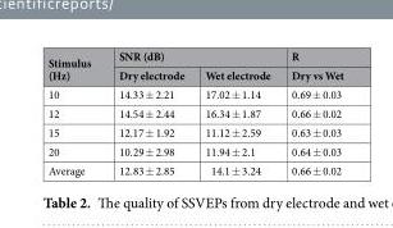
<table><thead><tr><td rowspan="2">Stimulus (Hz)</td><td colspan="2">SNR (dB)</td><td rowspan="2">R Dry vs Wet</td></tr><tr><td>Dry electrode</td><td>Wet electrode</td></tr></thead><tbody><tr><td>10</td><td>14.33 ± 2.21</td><td>17.02 ± 1.14</td><td>0.69 ± 0.03</td></tr><tr><td>12</td><td>14.54 ± 2.44</td><td>16.34 ± 1.87</td><td>0.66 ± 0.02</td></tr><tr><td>15</td><td>12.17 ± 1.92</td><td>11.12 ± 2.59</td><td>0.63 ± 0.03</td></tr><tr><td>20</td><td>10.29 ± 2.98</td><td>11.94 ± 2.1</td><td>0.64 ± 0.03</td></tr><tr><td>Average</td><td>12.83 ± 2.85</td><td>14.1 ± 3.24</td><td>0.66 ± 0.02</td></tr></tbody></table>